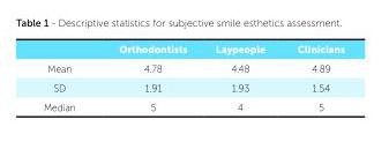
<table><thead><tr><td></td><td>Orthodontists</td><td>Laypeople</td><td>Clinicians</td></tr></thead><tbody><tr><td>Mean</td><td>4.78</td><td>4.48</td><td>4.89</td></tr><tr><td>SD</td><td>1.91</td><td>1.93</td><td>1.54</td></tr><tr><td>Median</td><td>5</td><td>4</td><td>5</td></tr></tbody></table>